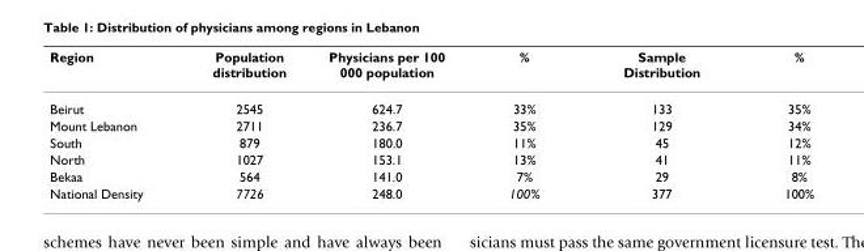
<table><thead><tr><td>Region</td><td>Population distribution</td><td>Physicians per 100 000 population</td><td>%</td><td>Sample Distribution</td><td>%</td></tr></thead><tbody><tr><td>Beirut</td><td>2545</td><td>624.7</td><td>33%</td><td>133</td><td>35%</td></tr><tr><td>Mount Lebanon</td><td>2711</td><td>236.7</td><td>35%</td><td>129</td><td>34%</td></tr><tr><td>South</td><td>879</td><td>180.0</td><td>11%</td><td>45</td><td>12%</td></tr><tr><td>North</td><td>1027</td><td>153.1</td><td>13%</td><td>41</td><td>11%</td></tr><tr><td>Bekaa</td><td>564</td><td>141.0</td><td>7%</td><td>29</td><td>8%</td></tr><tr><td>National Density</td><td>7726</td><td>248.0</td><td>100%</td><td>377</td><td>100%</td></tr></tbody></table>